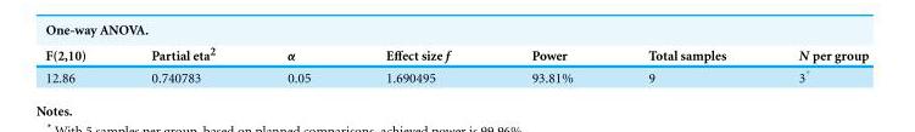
<table><thead><tr><td>F(2,10)</td><td>Partial eta<sup>2</sup></td><td>α</td><td>Effect size f</td><td>Power</td><td>Total samples</td><td>N per group</td></tr></thead><tbody><tr><td>12.86</td><td>0.740783</td><td>0.05</td><td>1.690495</td><td>93.81%</td><td>9</td><td>3*</td></tr></tbody></table>